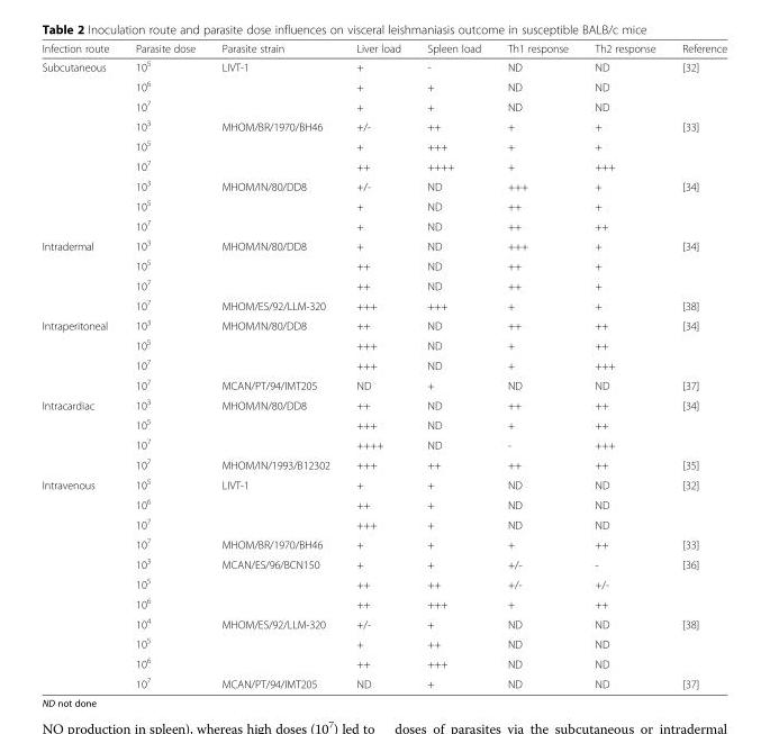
<table><thead><tr><td>Infection route</td><td>Parasite dose</td><td>Parasite strain</td><td>Liver load</td><td>Spleen load</td><td>Th1 response</td><td>Th2 response</td><td>Reference</td></tr></thead><tbody><tr><td rowspan="9">Subcutaneous</td><td>10<sup>5</sup></td><td rowspan="3">LIVT-1</td><td>+</td><td>-</td><td>ND</td><td>ND</td><td rowspan="3">[32]</td></tr><tr><td>10<sup>6</sup></td><td>+</td><td>+</td><td>ND</td><td>ND</td></tr><tr><td>10<sup>7</sup></td><td>+</td><td>+</td><td>ND</td><td>ND</td></tr><tr><td>10<sup>3</sup></td><td rowspan="3">MHOM/BR/1970/BH46</td><td>+/-</td><td>++</td><td>+</td><td>+</td><td rowspan="3">[33]</td></tr><tr><td>10<sup>5</sup></td><td>+</td><td>+++</td><td>+</td><td>+</td></tr><tr><td>10<sup>7</sup></td><td>++</td><td>++++</td><td>+</td><td>+++</td></tr><tr><td>10<sup>3</sup></td><td rowspan="3">MHOM/IN/80/DD8</td><td>+/-</td><td>ND</td><td>+++</td><td>+</td><td rowspan="3">[34]</td></tr><tr><td>10<sup>5</sup></td><td>+</td><td>ND</td><td>++</td><td>+</td></tr><tr><td>10<sup>7</sup></td><td>+</td><td>ND</td><td>++</td><td>++</td></tr><tr><td rowspan="4">Intradermal</td><td>10<sup>3</sup></td><td rowspan="3">MHOM/IN/80/DD8</td><td>+</td><td>ND</td><td>+++</td><td>+</td><td rowspan="3">[34]</td></tr><tr><td>10<sup>5</sup></td><td>++</td><td>ND</td><td>++</td><td>+</td></tr><tr><td>10<sup>7</sup></td><td>++</td><td>ND</td><td>++</td><td>+</td></tr><tr><td>10<sup>7</sup></td><td>MHOM/ES/92/LLM-320</td><td>+++</td><td>+++</td><td>+</td><td>+</td><td>[38]</td></tr><tr><td rowspan="4">Intraperitoneal</td><td>10<sup>3</sup></td><td rowspan="3">MHOM/IN/80/DD8</td><td>++</td><td>ND</td><td>++</td><td>++</td><td rowspan="3">[34]</td></tr><tr><td>10<sup>5</sup></td><td>+++</td><td>ND</td><td>+</td><td>++</td></tr><tr><td>10<sup>7</sup></td><td>+++</td><td>ND</td><td>+</td><td>+++</td></tr><tr><td>10<sup>7</sup></td><td>MCAN/PT/94/IMT205</td><td>ND</td><td>+</td><td>ND</td><td>ND</td><td>[37]</td></tr><tr><td rowspan="4">Intracardiac</td><td>10<sup>3</sup></td><td rowspan="3">MHOM/IN/80/DD8</td><td>++</td><td>ND</td><td>++</td><td>++</td><td rowspan="3">[34]</td></tr><tr><td>10<sup>5</sup></td><td>+++</td><td>ND</td><td>+</td><td>++</td></tr><tr><td>10<sup>7</sup></td><td>++++</td><td>ND</td><td>-</td><td>+++</td></tr><tr><td>10<sup>7</sup></td><td>MHOM/IN/1993/B12302</td><td>+++</td><td>++</td><td>++</td><td>++</td><td>[35]</td></tr><tr><td rowspan="11">Intravenous</td><td>10<sup>5</sup></td><td rowspan="3">LIVT-1</td><td>+</td><td>+</td><td>ND</td><td>ND</td><td rowspan="3">[32]</td></tr><tr><td>10<sup>6</sup></td><td>++</td><td>+</td><td>ND</td><td>ND</td></tr><tr><td>10<sup>7</sup></td><td>+++</td><td>+</td><td>ND</td><td>ND</td></tr><tr><td>10<sup>7</sup></td><td>MHOM/BR/1970/BH46</td><td>+</td><td>+</td><td>+</td><td>++</td><td>[33]</td></tr><tr><td>10<sup>3</sup></td><td rowspan="3">MCAN/ES/96/BCN150</td><td>+</td><td>+</td><td>+/-</td><td>-</td><td rowspan="3">[36]</td></tr><tr><td>10<sup>5</sup></td><td>++</td><td>++</td><td>+/-</td><td>+/-</td></tr><tr><td>10<sup>6</sup></td><td>++</td><td>+++</td><td>+</td><td>++</td></tr><tr><td>10<sup>4</sup></td><td rowspan="3">MHOM/ES/92/LLM-320</td><td>+/-</td><td>+</td><td>ND</td><td>ND</td><td rowspan="3">[38]</td></tr><tr><td>10<sup>5</sup></td><td>+</td><td>++</td><td>ND</td><td>ND</td></tr><tr><td>10<sup>6</sup></td><td>++</td><td>+++</td><td>ND</td><td>ND</td></tr><tr><td>10<sup>7</sup></td><td>MCAN/PT/94/IMT205</td><td>ND</td><td>+</td><td>ND</td><td>ND</td><td>[37]</td></tr></tbody></table>